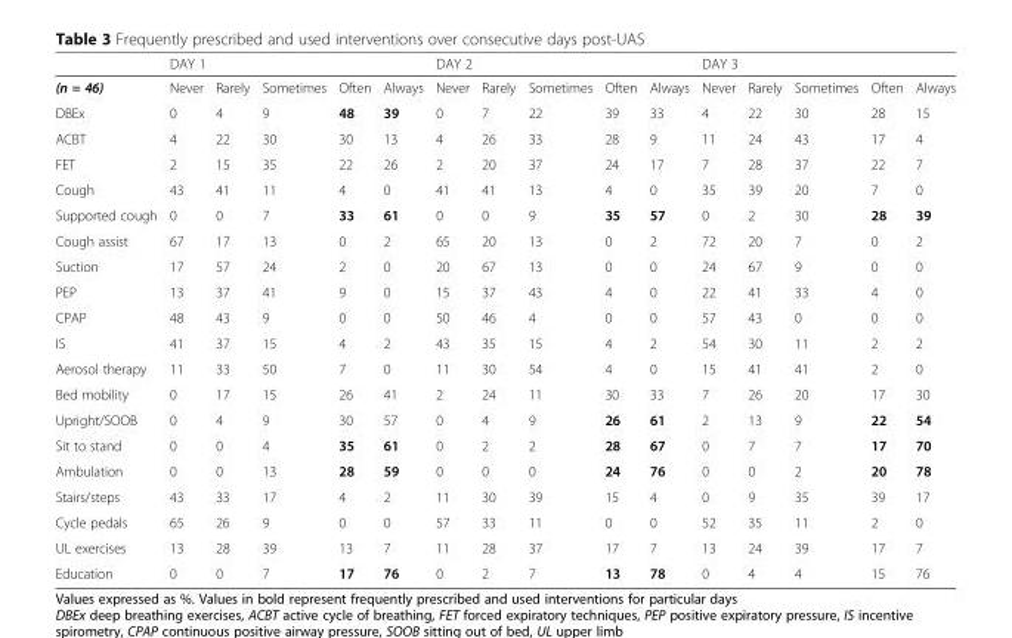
<table><thead><tr><td rowspan="2">(n = 46)</td><td colspan="5">DAY 1</td><td colspan="5">DAY 2</td><td colspan="5">DAY 3</td></tr><tr><td>Never</td><td>Rarely</td><td>Sometimes</td><td>Often</td><td>Always</td><td>Never</td><td>Rarely</td><td>Sometimes</td><td>Often</td><td>Always</td><td>Never</td><td>Rarely</td><td>Sometimes</td><td>Often</td><td>Always</td></tr></thead><tbody><tr><td>DBEx</td><td>0</td><td>4</td><td>9</td><td>48</td><td>39</td><td>0</td><td>7</td><td>22</td><td>39</td><td>33</td><td>4</td><td>22</td><td>30</td><td>28</td><td>15</td></tr><tr><td>ACBT</td><td>4</td><td>22</td><td>30</td><td>30</td><td>13</td><td>4</td><td>26</td><td>33</td><td>28</td><td>9</td><td>11</td><td>24</td><td>43</td><td>17</td><td>4</td></tr><tr><td>FET</td><td>2</td><td>15</td><td>35</td><td>22</td><td>26</td><td>2</td><td>20</td><td>37</td><td>24</td><td>17</td><td>7</td><td>28</td><td>37</td><td>22</td><td>7</td></tr><tr><td>Cough</td><td>43</td><td>41</td><td>11</td><td>4</td><td>0</td><td>41</td><td>41</td><td>13</td><td>4</td><td>0</td><td>35</td><td>39</td><td>20</td><td>7</td><td>0</td></tr><tr><td>Supported cough</td><td>0</td><td>0</td><td>7</td><td>33</td><td>61</td><td>0</td><td>0</td><td>9</td><td>35</td><td>57</td><td>0</td><td>2</td><td>30</td><td>28</td><td>39</td></tr><tr><td>Cough assist</td><td>67</td><td>17</td><td>13</td><td>0</td><td>2</td><td>65</td><td>20</td><td>13</td><td>0</td><td>2</td><td>72</td><td>20</td><td>7</td><td>0</td><td>2</td></tr><tr><td>Suction</td><td>17</td><td>57</td><td>24</td><td>2</td><td>0</td><td>20</td><td>67</td><td>13</td><td>0</td><td>0</td><td>24</td><td>67</td><td>9</td><td>0</td><td>0</td></tr><tr><td>PEP</td><td>13</td><td>37</td><td>41</td><td>9</td><td>0</td><td>15</td><td>37</td><td>43</td><td>4</td><td>0</td><td>22</td><td>41</td><td>33</td><td>4</td><td>0</td></tr><tr><td>CPAP</td><td>48</td><td>43</td><td>9</td><td>0</td><td>0</td><td>50</td><td>46</td><td>4</td><td>0</td><td>0</td><td>57</td><td>43</td><td>0</td><td>0</td><td>0</td></tr><tr><td>IS</td><td>41</td><td>37</td><td>15</td><td>4</td><td>2</td><td>43</td><td>35</td><td>15</td><td>4</td><td>2</td><td>54</td><td>30</td><td>11</td><td>2</td><td>2</td></tr><tr><td>Aerosol therapy</td><td>11</td><td>33</td><td>50</td><td>7</td><td>0</td><td>11</td><td>30</td><td>54</td><td>4</td><td>0</td><td>15</td><td>41</td><td>41</td><td>2</td><td>0</td></tr><tr><td>Bed mobility</td><td>0</td><td>17</td><td>15</td><td>26</td><td>41</td><td>2</td><td>24</td><td>11</td><td>30</td><td>33</td><td>7</td><td>26</td><td>20</td><td>17</td><td>30</td></tr><tr><td>Upright/SOOB</td><td>0</td><td>4</td><td>9</td><td>30</td><td>57</td><td>0</td><td>4</td><td>9</td><td>26</td><td>61</td><td>2</td><td>13</td><td>9</td><td>22</td><td>54</td></tr><tr><td>Sit to stand</td><td>0</td><td>0</td><td>4</td><td>35</td><td>61</td><td>0</td><td>2</td><td>2</td><td>28</td><td>67</td><td>0</td><td>7</td><td>7</td><td>17</td><td>70</td></tr><tr><td>Ambulation</td><td>0</td><td>0</td><td>13</td><td>28</td><td>59</td><td>0</td><td>0</td><td>0</td><td>24</td><td>76</td><td>0</td><td>0</td><td>2</td><td>20</td><td>78</td></tr><tr><td>Stairs/steps</td><td>43</td><td>33</td><td>17</td><td>4</td><td>2</td><td>11</td><td>30</td><td>39</td><td>15</td><td>4</td><td>0</td><td>9</td><td>35</td><td>39</td><td>17</td></tr><tr><td>Cycle pedals</td><td>65</td><td>26</td><td>9</td><td>0</td><td>0</td><td>57</td><td>33</td><td>11</td><td>0</td><td>0</td><td>52</td><td>35</td><td>11</td><td>2</td><td>0</td></tr><tr><td>UL exercises</td><td>13</td><td>28</td><td>39</td><td>13</td><td>7</td><td>11</td><td>28</td><td>37</td><td>17</td><td>7</td><td>13</td><td>24</td><td>39</td><td>17</td><td>7</td></tr><tr><td>Education</td><td>0</td><td>0</td><td>7</td><td>17</td><td>76</td><td>0</td><td>2</td><td>7</td><td>13</td><td>78</td><td>0</td><td>4</td><td>4</td><td>15</td><td>76</td></tr></tbody></table>